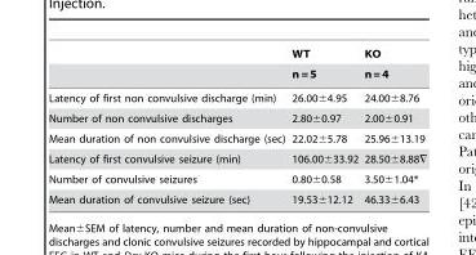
<table><thead><tr><td rowspan="2"></td><td rowspan="2">WT n = 5</td><td rowspan="2">KO n = 4</td></tr><tr></tr></thead><tbody><tr><td>Latency of first non convulsive discharge (min)</td><td>26.00±4.95</td><td>24.00±8.76</td></tr><tr><td>Number of non convulsive discharges</td><td>2.80±0.97</td><td>2.00±0.91</td></tr><tr><td>Mean duration of non convulsive discharge (sec)</td><td>22.02±5.78</td><td>25.96±13.19</td></tr><tr><td>Latency of first convulsive seizure (min)</td><td>106.00±33.92</td><td>28.5068.88=</td></tr><tr><td>Number of convulsive seizures</td><td>0.80±0.58</td><td>3.50±1.04*</td></tr><tr><td>Mean duration of convulsive seizure (sec)</td><td>19.53±12.12</td><td>46.33±6.43</td></tr></tbody></table>